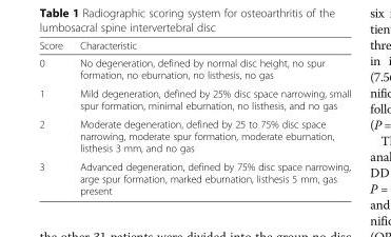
<table><thead><tr><td>Score</td><td>Characteristic</td></tr></thead><tbody><tr><td>0</td><td>No degeneration, defined by normal disc height, no spur formation, no eburnation, no listhesis, no gas</td></tr><tr><td>1</td><td>Mild degeneration, defined by 25% disc space narrowing, small spur formation, minimal eburnation, no listhesis, and no gas</td></tr><tr><td>2</td><td>Moderate degeneration, defined by 25 to 75% disc space narrowing, moderate spur formation, moderate eburnation, listhesis 3 mm, and no gas</td></tr><tr><td>3</td><td>Advanced degeneration, defined by 75% disc space narrowing, arge spur formation, marked eburnation, listhesis 5 mm, gas present</td></tr></tbody></table>